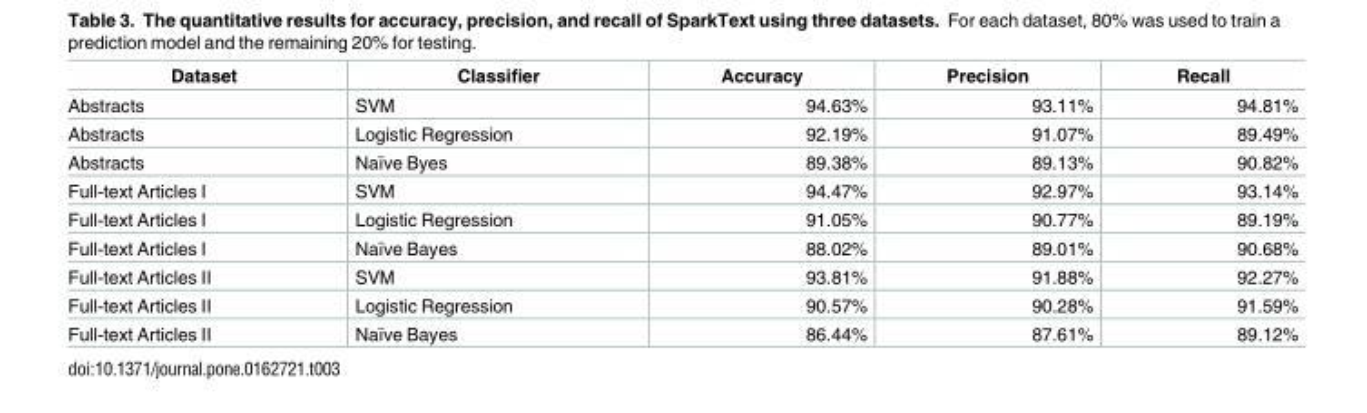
<table><thead><tr><td>Dataset</td><td>Classifier</td><td>Accuracy</td><td>Precision</td><td>Recall</td></tr></thead><tbody><tr><td>Abstracts</td><td>SVM</td><td>94.63%</td><td>93.11%</td><td>94.81%</td></tr><tr><td>Abstracts</td><td>Logistic Regression</td><td>92.19%</td><td>91.07%</td><td>89.49%</td></tr><tr><td>Abstracts</td><td>Naïve Byes</td><td>89.38%</td><td>89.13%</td><td>90.82%</td></tr><tr><td>Full-text Articles I</td><td>SVM</td><td>94.47%</td><td>92.97%</td><td>93.14%</td></tr><tr><td>Full-text Articles I</td><td>Logistic Regression</td><td>91.05%</td><td>90.77%</td><td>89.19%</td></tr><tr><td>Full-text Articles I</td><td>Naïve Bayes</td><td>88.02%</td><td>89.01%</td><td>90.68%</td></tr><tr><td>Full-text Articles II</td><td>SVM</td><td>93.81%</td><td>91.88%</td><td>92.27%</td></tr><tr><td>Full-text Articles II</td><td>Logistic Regression</td><td>90.57%</td><td>90.28%</td><td>91.59%</td></tr><tr><td>Full-text Articles II</td><td>Naïve Bayes</td><td>86.44%</td><td>87.61%</td><td>89.12%</td></tr></tbody></table>